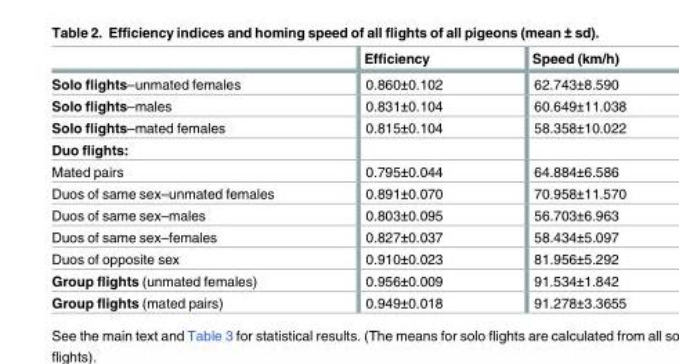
<table><thead><tr><td></td><td>Efficiency</td><td>Speed (km/h)</td></tr></thead><tbody><tr><td>Solo flights–unmated females</td><td>0.860±0.102</td><td>62.743±8.590</td></tr><tr><td>Solo flights–males</td><td>0.831±0.104</td><td>60.649±11.038</td></tr><tr><td>Solo flights–mated females</td><td>0.815±0.104</td><td>58.358±10.022</td></tr><tr><td colspan="3">Duo flights:</td></tr><tr><td>Mated pairs</td><td>0.795±0.044</td><td>64.884±6.586</td></tr><tr><td>Duos of same sex–unmated females</td><td>0.891±0.070</td><td>70.958±11.570</td></tr><tr><td>Duos of same sex–males</td><td>0.803±0.095</td><td>56.703±6.963</td></tr><tr><td>Duos of same sex–females</td><td>0.827±0.037</td><td>58.434±5.097</td></tr><tr><td>Duos of opposite sex</td><td>0.910±0.023</td><td>81.956±5.292</td></tr><tr><td>Group flights (unmated females)</td><td>0.956±0.009</td><td>91.534±1.842</td></tr><tr><td>Group flights (mated pairs)</td><td>0.949±0.018</td><td>91.278±3.3655</td></tr></tbody></table>